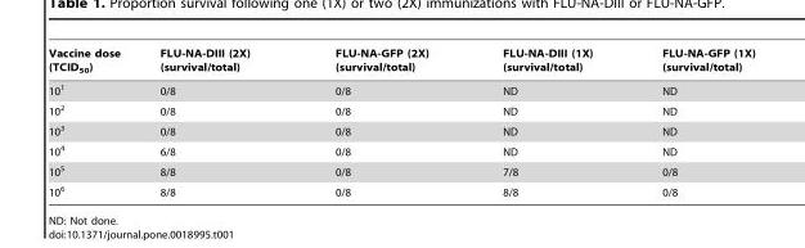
<table><thead><tr><td>Vaccine dose (TCID<sub>50</sub>)</td><td>FLU-NA-DIII (2X) (survival/total)</td><td>FLU-NA-GFP (2X) (survival/total)</td><td>FLU-NA-DIII (1X) (survival/total)</td><td>FLU-NA-GFP (1X) (survival/total)</td></tr></thead><tbody><tr><td>10<sup>1</sup></td><td>0/8</td><td>0/8</td><td>ND</td><td>ND</td></tr><tr><td>10<sup>2</sup></td><td>0/8</td><td>0/8</td><td>ND</td><td>ND</td></tr><tr><td>10<sup>3</sup></td><td>0/8</td><td>0/8</td><td>ND</td><td>ND</td></tr><tr><td>10<sup>4</sup></td><td>6/8</td><td>0/8</td><td>ND</td><td>ND</td></tr><tr><td>10<sup>5</sup></td><td>8/8</td><td>0/8</td><td>7/8</td><td>0/8</td></tr><tr><td>10<sup>6</sup></td><td>8/8</td><td>0/8</td><td>8/8</td><td>0/8</td></tr></tbody></table>